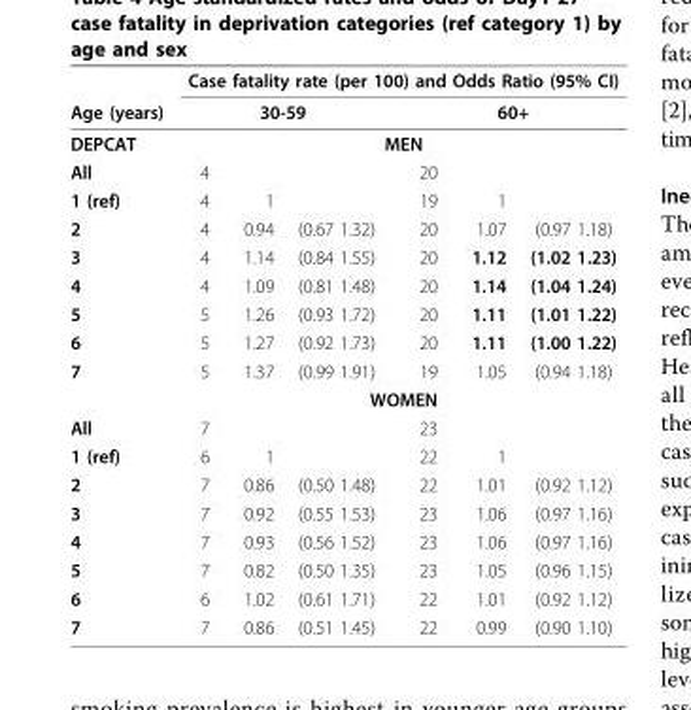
<table><thead><tr><td rowspan="4">Age (years) DEPCAT All</td><td colspan="6">Case fatality rate (per 100) and Odds Ratio (95% CI)</td></tr><tr><td colspan="3">30-59</td><td colspan="3">60+</td></tr><tr><td colspan="6">MEN</td></tr><tr><td>4</td><td></td><td></td><td>20</td><td></td><td></td></tr></thead><tbody><tr><td>1 (ref)</td><td>4</td><td>1</td><td></td><td>19</td><td>1</td><td></td></tr><tr><td>2</td><td>4</td><td>0.94</td><td>(0.67 1.32)</td><td>20</td><td>1.07</td><td>(0.97 1.18)</td></tr><tr><td>3</td><td>4</td><td>1.14</td><td>(0.84 1.55)</td><td>20</td><td>1.12</td><td>(1.02 1.23)</td></tr><tr><td>4</td><td>4</td><td>1.09</td><td>(0.81 1.48)</td><td>20</td><td>1.14</td><td>(1.04 1.24)</td></tr><tr><td>5</td><td>5</td><td>1.26</td><td>(0.93 1.72)</td><td>20</td><td>1.11</td><td>(1.01 1.22)</td></tr><tr><td>6</td><td>5</td><td>1.27</td><td>(0.92 1.73)</td><td>20</td><td>1.11</td><td>(1.00 1.22)</td></tr><tr><td rowspan="2">7</td><td>5</td><td>1.37</td><td>(0.99 1.91)</td><td>19</td><td>1.05</td><td>(0.94 1.18)</td></tr><tr><td colspan="6">WOMEN</td></tr><tr><td>All</td><td>7</td><td></td><td></td><td>23</td><td></td><td></td></tr><tr><td>1 (ref)</td><td>6</td><td>1</td><td></td><td>22</td><td>1</td><td></td></tr><tr><td>2</td><td>7</td><td>0.86</td><td>(0.50 1.48)</td><td>22</td><td>1.01</td><td>(0.92 1.12)</td></tr><tr><td>3</td><td>7</td><td>0.92</td><td>(0.55 1.53)</td><td>23</td><td>1.06</td><td>(0.97 1.16)</td></tr><tr><td>4</td><td>7</td><td>0.93</td><td>(0.56 1.52)</td><td>23</td><td>1.06</td><td>(0.97 1.16)</td></tr><tr><td>5</td><td>7</td><td>0.82</td><td>(0.50 1.35)</td><td>23</td><td>1.05</td><td>(0.96 1.15)</td></tr><tr><td>6</td><td>6</td><td>1.02</td><td>(0.61 1.71)</td><td>22</td><td>1.01</td><td>(0.92 1.12)</td></tr><tr><td>7</td><td>7</td><td>0.86</td><td>(0.51 1.45)</td><td>22</td><td>0.99</td><td>(0.90 1.10)</td></tr></tbody></table>